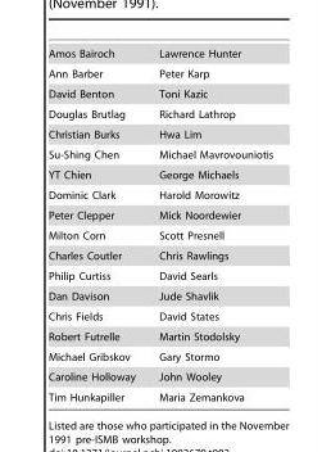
<table><tbody><tr><td>Amos Bairoch</td><td>Lawrence Hunter</td></tr><tr><td>Ann Barber</td><td>Peter Karp</td></tr><tr><td>David Benton</td><td>Toni Kazic</td></tr><tr><td>Douglas Brutlag</td><td>Richard Lathrop</td></tr><tr><td>Christian Burks</td><td>Hwa Lim</td></tr><tr><td>Su-Shing Chen</td><td>Michael Mavrovouniotis</td></tr><tr><td>YT Chien</td><td>George Michaels</td></tr><tr><td>Dominic Clark</td><td>Harold Morowitz</td></tr><tr><td>Peter Clepper</td><td>Mick Noordewier</td></tr><tr><td>Milton Corn</td><td>Scott Presnell</td></tr><tr><td>Charles Coutler</td><td>Chris Rawlings</td></tr><tr><td>Philip Curtiss</td><td>David Searls</td></tr><tr><td>Dan Davison</td><td>Jude Shavlik</td></tr><tr><td>Chris Fields</td><td>David States</td></tr><tr><td>Robert Futrelle</td><td>Martin Stodolsky</td></tr><tr><td>Michael Gribskov</td><td>Gary Stormo</td></tr><tr><td>Caroline Holloway</td><td>John Wooley</td></tr><tr><td>Tim Hunkapiller</td><td>Maria Zemankova</td></tr></tbody></table>